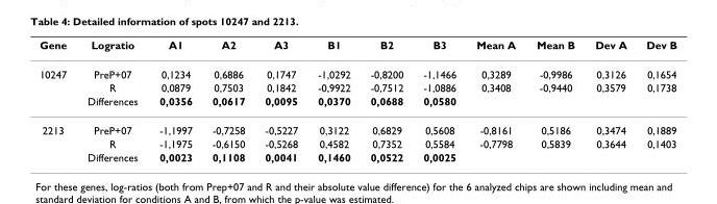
<table><thead><tr><td>Gene</td><td>Logratio</td><td>A1</td><td>A2</td><td>A3</td><td>B1</td><td>B2</td><td>B3</td><td>Mean A</td><td>Mean B</td><td>Dev A</td><td>Dev B</td></tr></thead><tbody><tr><td rowspan="3">10247</td><td>PreP+07</td><td>0,1234</td><td>0,6886</td><td>0,1747</td><td>-1,0292</td><td>-0,8200</td><td>-1,1466</td><td>0,3289</td><td>-0,9986</td><td>0,3126</td><td>0,1654</td></tr><tr><td>R</td><td>0,0879</td><td>0,7503</td><td>0,1842</td><td>-0,9922</td><td>-0,7512</td><td>-1,0886</td><td>0,3408</td><td>-0,9440</td><td>0,3579</td><td>0,1738</td></tr><tr><td>Differences</td><td>0,0356</td><td>0,0617</td><td>0,0095</td><td>0,0370</td><td>0,0688</td><td>0,0580</td><td></td><td></td><td></td><td></td></tr><tr><td rowspan="3">2213</td><td>PreP+07</td><td>-1,1997</td><td>-0,7258</td><td>-0,5227</td><td>0,3122</td><td>0,6829</td><td>0,5608</td><td>-0,8161</td><td>0,5186</td><td>0,3474</td><td>0,1889</td></tr><tr><td>R</td><td>-1,1975</td><td>-0,6150</td><td>-0,5268</td><td>0,4582</td><td>0,7352</td><td>0,5584</td><td>-0,7798</td><td>0,5839</td><td>0,3644</td><td>0,1403</td></tr><tr><td>Differences</td><td>0,0023</td><td>0,1108</td><td>0,0041</td><td>0,1460</td><td>0,0522</td><td>0,0025</td><td></td><td></td><td></td><td></td></tr></tbody></table>